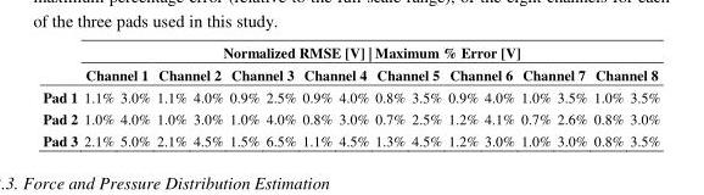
<table><thead><tr><td rowspan="3">Pad 1</td><td colspan="16">Normalized RMSE [V] | Maximum % Error [V]</td></tr><tr><td colspan="2">Channel 1</td><td colspan="2">Channel 2</td><td colspan="2">Channel 3</td><td colspan="2">Channel 4</td><td colspan="2">Channel 5</td><td colspan="2">Channel 6</td><td colspan="2">Channel 7</td><td colspan="2">Channel 8</td></tr><tr><td>1.1%</td><td>3.0%</td><td>1.1%</td><td>4.0%</td><td>0.9%</td><td>2.5%</td><td>0.9%</td><td>4.0%</td><td>0.8%</td><td>3.5%</td><td>0.9%</td><td>4.0%</td><td>1.0%</td><td>3.5%</td><td>1.0%</td><td>3.5%</td></tr></thead><tbody><tr><td>Pad 2</td><td>1.0%</td><td>4.0%</td><td>1.0%</td><td>3.0%</td><td>1.0%</td><td>4.0%</td><td>0.8%</td><td>3.0%</td><td>0.7%</td><td>2.5%</td><td>1.2%</td><td>4.1%</td><td>0.7%</td><td>2.6%</td><td>0.8%</td><td>3.0%</td></tr><tr><td>Pad 3</td><td>2.1%</td><td>5.0%</td><td>2.1%</td><td>4.5%</td><td>1.5%</td><td>6.5%</td><td>1.1%</td><td>4.5%</td><td>1.3%</td><td>4.5%</td><td>1.2%</td><td>3.0%</td><td>1.0%</td><td>3.0%</td><td>0.8%</td><td>3.5%</td></tr></tbody></table>